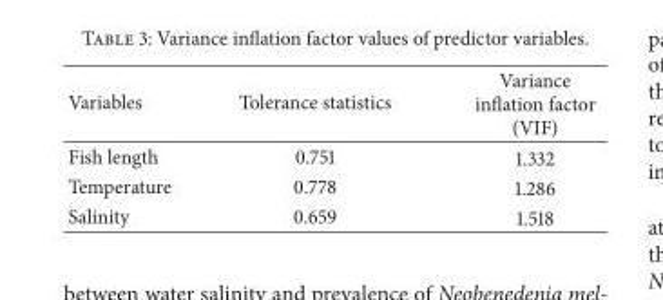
<table><thead><tr><td>Variables</td><td>Tolerance statistics</td><td>Variance inflation factor (VIF)</td></tr></thead><tbody><tr><td>Fish length</td><td>0.751</td><td>1.332</td></tr><tr><td>Temperature</td><td>0.778</td><td>1.286</td></tr><tr><td>Salinity</td><td>0.659</td><td>1.518</td></tr></tbody></table>